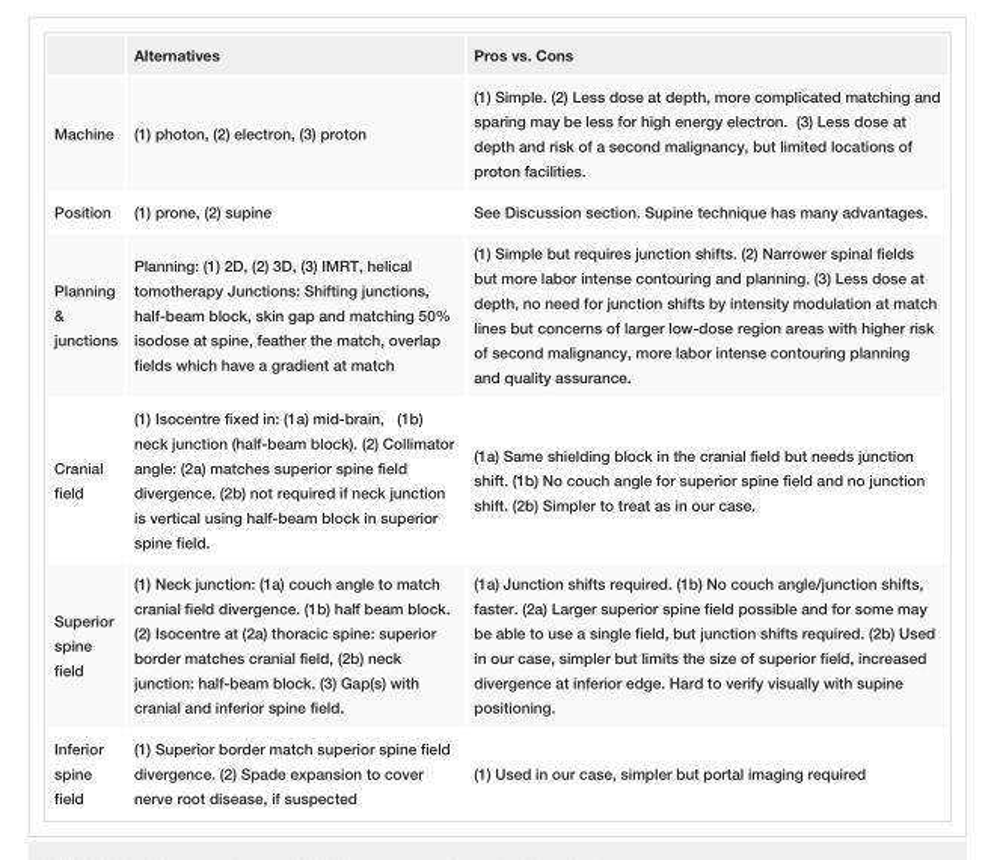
<table><thead><tr><td></td><td>Alternatives</td><td>Pros vs. Cons</td></tr></thead><tbody><tr><td>Machine</td><td>(1) photon, (2) electron, (3) proton</td><td>(1) Simple. (2) Less dose at depth, more complicated matching and sparing may be less for high energy electron. (3) Less dose at depth and risk of a second malignancy, but limited locations of proton facilities.</td></tr><tr><td>Position</td><td>(1) prone, (2) supine</td><td>See Discussion section. Supine technique has many advantages.</td></tr><tr><td>Planning &amp; junctions</td><td>Planning: (1) 2D, (2) 3D, (3) IMRT, helical tomotherapy Junctions: Shifting junctions, half-beam block, skin gap and matching 50% isodose at spine, feather the match, overlap fields which have a gradient at match</td><td>(1) Simple but requires junction shifts. (2) Narrower spinal fields but more labor intense contouring and planning. (3) Less dose at depth, no need for junction shifts by intensity modulation at match lines but concerns of larger low-dose region areas with higher risk of second malignancy, more labor intense contouring planning and quality assurance.</td></tr><tr><td>Cranial field</td><td>(1) Isocentre fixed in: (1a) mid-brain, (1b) neck junction (half-beam block). (2) Collimator angle: (2a) matches superior spine field divergence. (2b) not required if neck junction is vertical using half-beam block in superior spine field.</td><td>(1a) Same shielding block in the cranial field but needs junction shift. (1b) No couch angle for superior spine field and no junction shift. (2b) Simpler to treat as in our case.</td></tr><tr><td>Superior spine field</td><td>(1) Neck junction: (1a) couch angle to match cranial field divergence. (1b) half beam block. (2) Isocentre at (2a) thoracic spine: superior border matches cranial field, (2b) neck junction: half-beam block. (3) Gap(s) with cranial and inferior spine field.</td><td>(1a) Junction shifts required. (1b) No couch angle/junction shifts, faster. (2a) Larger superior spine field possible and for some may be able to use a single field, but junction shifts required. (2b) Used in our case, simpler but limits the size of superior field, increased divergence at inferior edge. Hard to verify visually with supine positioning.</td></tr><tr><td>Inferior spine field</td><td>(1) Superior border match superior spine field divergence. (2) Spade expansion to cover nerve root disease, if suspected</td><td>(1) Used in our case, simpler but portal imaging required</td></tr></tbody></table>